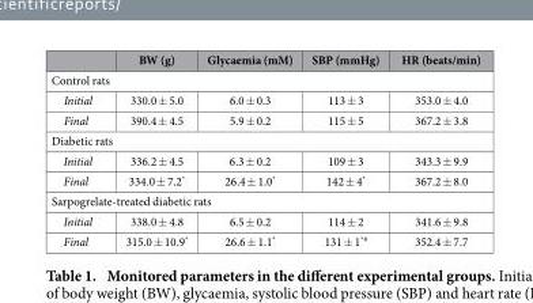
<table><thead><tr><td></td><td>BW (g)</td><td>Glycaemia (mM)</td><td>SBP (mmHg)</td><td>HR (beats/min)</td></tr></thead><tbody><tr><td colspan="5">Control rats</td></tr><tr><td>Initial</td><td>330.0 ± 5.0</td><td>6.0 ± 0.3</td><td>113 ± 3</td><td>353.0 ± 4.0</td></tr><tr><td>Final</td><td>390.4 ± 4.5</td><td>5.9 ± 0.2</td><td>115 ± 5</td><td>367.2 ± 3.8</td></tr><tr><td colspan="5">Diabetic rats</td></tr><tr><td>Initial</td><td>336.2 ± 4.5</td><td>6.3 ± 0.2</td><td>109 ± 3</td><td>343.3 ± 9.9</td></tr><tr><td>Final</td><td>334.0 ± 7.2*</td><td>26.4 ± 1.0*</td><td>142 ± 4*</td><td>367.2 ± 8.0</td></tr><tr><td colspan="5">Sarpogrelate-treated diabetic rats</td></tr><tr><td>Initial</td><td>338.0 ± 4.8</td><td>6.5 ± 0.2</td><td>114 ± 2</td><td>341.6 ± 9.8</td></tr><tr><td>Final</td><td>315.0 ± 10.9*</td><td>26.6 ± 1.1*</td><td>131 ± 1<sup>*#</sup></td><td>352.4 ± 7.7</td></tr></tbody></table>